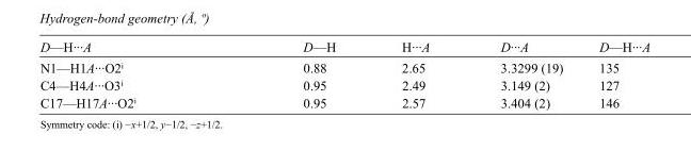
<table><tbody><tr><td>D—H···A</td><td>D—H</td><td>H···A</td><td>D···A</td><td>D—H···A</td></tr><tr><td>N1—H1A···O2<sup>i</sup></td><td>0.88</td><td>2.65</td><td>3.3299 (19)</td><td>135</td></tr><tr><td>C4—H4A···O3<sup>i</sup></td><td>0.95</td><td>2.49</td><td>3.149 (2)</td><td>127</td></tr><tr><td>C17—H17A···O2<sup>i</sup></td><td>0.95</td><td>2.57</td><td>3.404 (2)</td><td>146</td></tr></tbody></table>